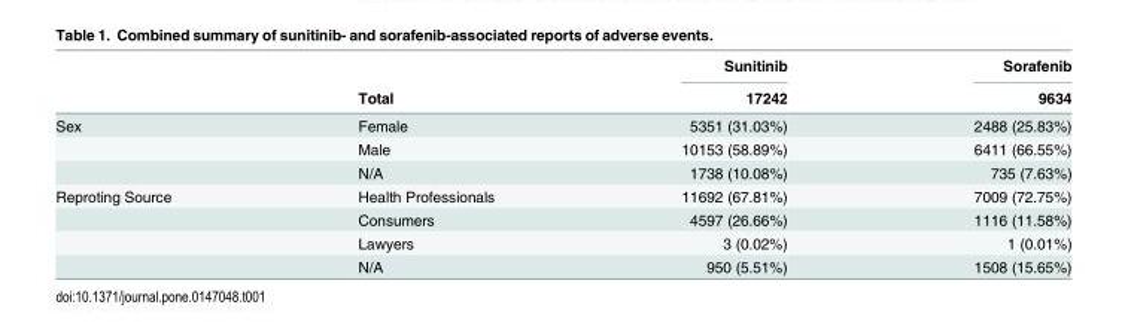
<table><thead><tr><td rowspan="2"></td><td rowspan="2">Total</td><td rowspan="2">Sunitinib 17242</td><td rowspan="2">Sorafenib 9634</td></tr><tr></tr></thead><tbody><tr><td rowspan="3">Sex</td><td>Female</td><td>5351 (31.03%)</td><td>2488 (25.83%)</td></tr><tr><td>Male</td><td>10153 (58.89%)</td><td>6411 (66.55%)</td></tr><tr><td>N/A</td><td>1738 (10.08%)</td><td>735 (7.63%)</td></tr><tr><td rowspan="4">Reproting Source</td><td>Health Professionals</td><td>11692 (67.81%)</td><td>7009 (72.75%)</td></tr><tr><td>Consumers</td><td>4597 (26.66%)</td><td>1116 (11.58%)</td></tr><tr><td>Lawyers</td><td>3 (0.02%)</td><td>1 (0.01%)</td></tr><tr><td>N/A</td><td>950 (5.51%)</td><td>1508 (15.65%)</td></tr></tbody></table>